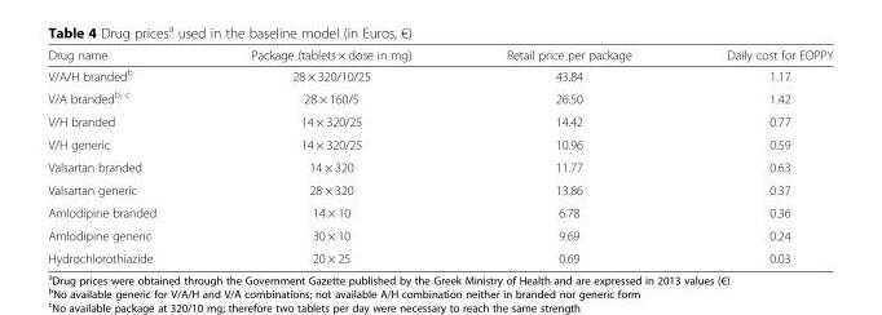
<table><thead><tr><td>Drug name</td><td>Package (tablets × dose in mg)</td><td>Retail price per package</td><td>Daily cost for EOPPY</td></tr></thead><tbody><tr><td>V/A/H branded<sup>b</sup></td><td>28 × 320/10/25</td><td>43.84</td><td>1.17</td></tr><tr><td>V/A branded<sup>b, c</sup></td><td>28 × 160/5</td><td>26.50</td><td>1.42</td></tr><tr><td>V/H branded</td><td>14 × 320/25</td><td>14.42</td><td>0.77</td></tr><tr><td>V/H generic</td><td>14 × 320/25</td><td>10.96</td><td>0.59</td></tr><tr><td>Valsartan branded</td><td>14 × 320</td><td>11.77</td><td>0.63</td></tr><tr><td>Valsartan generic</td><td>28 × 320</td><td>13.86</td><td>0.37</td></tr><tr><td>Amlodipine branded</td><td>14 × 10</td><td>6.78</td><td>0.36</td></tr><tr><td>Amlodipine generic</td><td>30 × 10</td><td>9.69</td><td>0.24</td></tr><tr><td>Hydrochlorothiazide</td><td>20 × 25</td><td>0.69</td><td>0.03</td></tr></tbody></table>